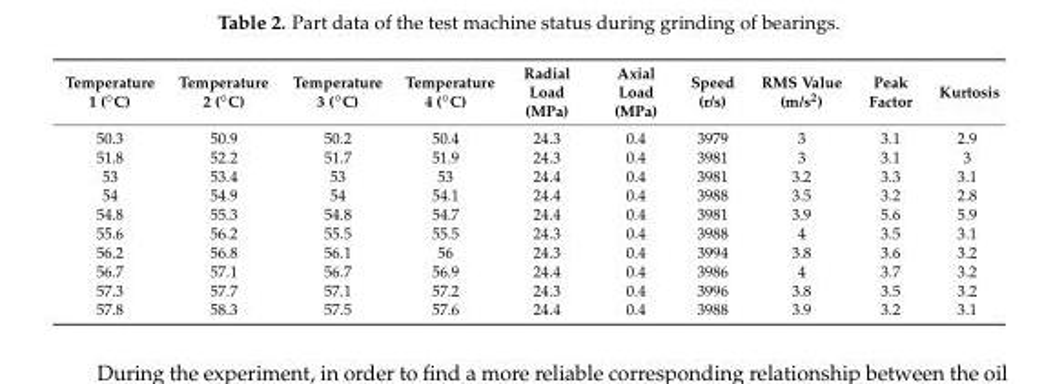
<table><thead><tr><td>Temperature 1 (◦C)</td><td>Temperature 2 (◦C)</td><td>Temperature 3 (◦C)</td><td>Temperature 4 (◦C)</td><td>Radial Load (MPa)</td><td>Axial Load (MPa)</td><td>Speed (r/s)</td><td>RMS Value (m/s<sup>2</sup>)</td><td>Peak Factor</td><td>Kurtosis</td></tr></thead><tbody><tr><td>50.3</td><td>50.9</td><td>50.2</td><td>50.4</td><td>24.3</td><td>0.4</td><td>3979</td><td>3</td><td>3.1</td><td>2.9</td></tr><tr><td>51.8</td><td>52.2</td><td>51.7</td><td>51.9</td><td>24.3</td><td>0.4</td><td>3981</td><td>3</td><td>3.1</td><td>3</td></tr><tr><td>53</td><td>53.4</td><td>53</td><td>53</td><td>24.4</td><td>0.4</td><td>3981</td><td>3.2</td><td>3.3</td><td>3.1</td></tr><tr><td>54</td><td>54.9</td><td>54</td><td>54.1</td><td>24.4</td><td>0.4</td><td>3988</td><td>3.5</td><td>3.2</td><td>2.8</td></tr><tr><td>54.8</td><td>55.3</td><td>54.8</td><td>54.7</td><td>24.4</td><td>0.4</td><td>3981</td><td>3.9</td><td>5.6</td><td>5.9</td></tr><tr><td>55.6</td><td>56.2</td><td>55.5</td><td>55.5</td><td>24.3</td><td>0.4</td><td>3988</td><td>4</td><td>3.5</td><td>3.1</td></tr><tr><td>56.2</td><td>56.8</td><td>56.1</td><td>56</td><td>24.3</td><td>0.4</td><td>3994</td><td>3.8</td><td>3.6</td><td>3.2</td></tr><tr><td>56.7</td><td>57.1</td><td>56.7</td><td>56.9</td><td>24.4</td><td>0.4</td><td>3986</td><td>4</td><td>3.7</td><td>3.2</td></tr><tr><td>57.3</td><td>57.7</td><td>57.1</td><td>57.2</td><td>24.3</td><td>0.4</td><td>3996</td><td>3.8</td><td>3.5</td><td>3.2</td></tr><tr><td>57.8</td><td>58.3</td><td>57.5</td><td>57.6</td><td>24.4</td><td>0.4</td><td>3988</td><td>3.9</td><td>3.2</td><td>3.1</td></tr></tbody></table>